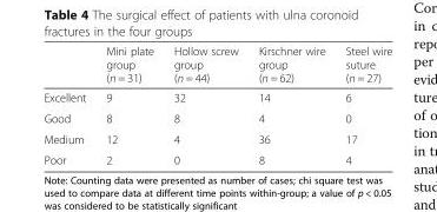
<table><thead><tr><td></td><td>Mini plate group (n = 31)</td><td>Hollow screw group (n = 44)</td><td>Kirschner wire group (n = 62)</td><td>Steel wire suture (n = 27)</td></tr></thead><tbody><tr><td>Excellent</td><td>9</td><td>32</td><td>14</td><td>6</td></tr><tr><td>Good</td><td>8</td><td>8</td><td>4</td><td>0</td></tr><tr><td>Medium</td><td>12</td><td>4</td><td>36</td><td>17</td></tr><tr><td>Poor</td><td>2</td><td>0</td><td>8</td><td>4</td></tr></tbody></table>